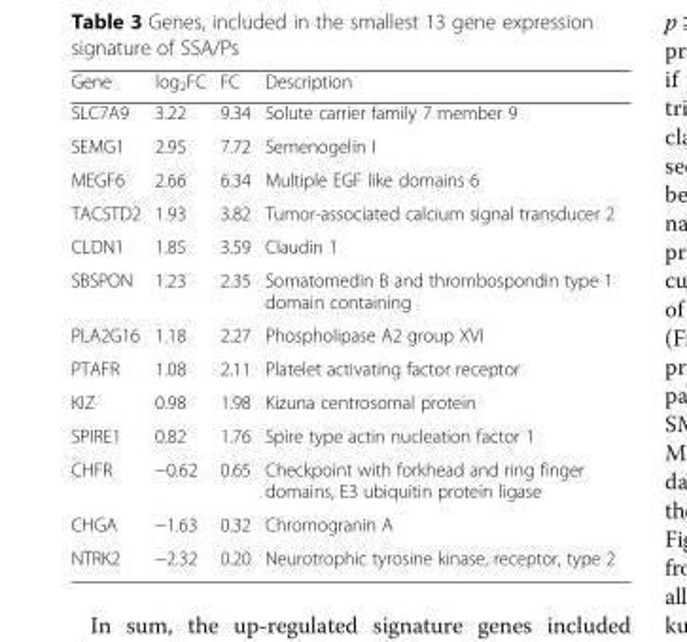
<table><thead><tr><td>Gene</td><td>log<sub>2</sub>FC</td><td>FC</td><td>Description</td></tr></thead><tbody><tr><td>SLC7A9</td><td>3.22</td><td>9.34</td><td>Solute carrier family 7 member 9</td></tr><tr><td>SEMG1</td><td>2.95</td><td>7.72</td><td>Semenogelin I</td></tr><tr><td>MEGF6</td><td>2.66</td><td>6.34</td><td>Multiple EGF like domains 6</td></tr><tr><td>TACSTD2</td><td>1.93</td><td>3.82</td><td>Tumor-associated calcium signal transducer 2</td></tr><tr><td>CLDN1</td><td>1.85</td><td>3.59</td><td>Claudin 1</td></tr><tr><td>SBSPON</td><td>1.23</td><td>2.35</td><td>Somatomedin B and thrombospondin type 1 domain containing</td></tr><tr><td>PLA2G16</td><td>1.18</td><td>2.27</td><td>Phospholipase A2 group XVI</td></tr><tr><td>PTAFR</td><td>1.08</td><td>2.11</td><td>Platelet activating factor receptor</td></tr><tr><td>KIZ</td><td>0.98</td><td>1.98</td><td>Kizuna centrosomal protein</td></tr><tr><td>SPIRE1</td><td>0.82</td><td>1.76</td><td>Spire type actin nucleation factor 1</td></tr><tr><td>CHFR</td><td>−0.62</td><td>0.65</td><td>Checkpoint with forkhead and ring finger domains, E3 ubiquitin protein ligase</td></tr><tr><td>CHGA</td><td>−1.63</td><td>0.32</td><td>Chromogranin A</td></tr><tr><td>NTRK2</td><td>−2.32</td><td>0.20</td><td>Neurotrophic tyrosine kinase, receptor, type 2</td></tr></tbody></table>